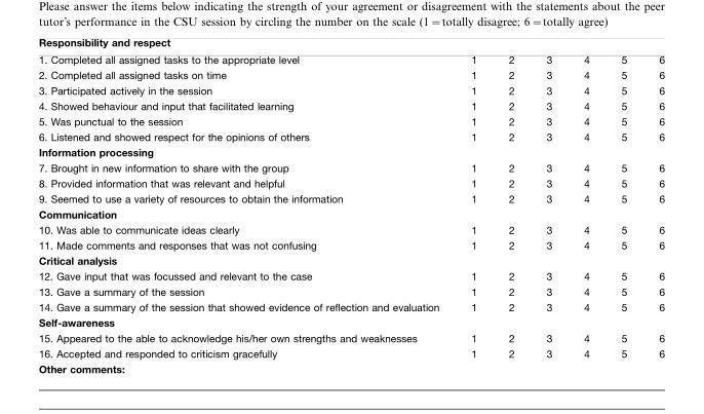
<table><tbody><tr><td colspan="7">Responsibility and respect</td></tr><tr><td>1. Completed all assigned tasks to the appropriate level</td><td>1</td><td>2</td><td>3</td><td>4</td><td>5</td><td>6</td></tr><tr><td>2. Completed all assigned tasks on time</td><td>1</td><td>2</td><td>3</td><td>4</td><td>5</td><td>6</td></tr><tr><td>3. Participated actively in the session</td><td>1</td><td>2</td><td>3</td><td>4</td><td>5</td><td>6</td></tr><tr><td>4. Showed behaviour and input that facilitated learning</td><td>1</td><td>2</td><td>3</td><td>4</td><td>5</td><td>6</td></tr><tr><td>5. Was punctual to the session</td><td>1</td><td>2</td><td>3</td><td>4</td><td>5</td><td>6</td></tr><tr><td>6. Listened and showed respect for the opinions of others</td><td>1</td><td>2</td><td>3</td><td>4</td><td>5</td><td>6</td></tr><tr><td colspan="7">Information processing</td></tr><tr><td>7. Brought in new information to share with the group</td><td>1</td><td>2</td><td>3</td><td>4</td><td>5</td><td>6</td></tr><tr><td>8. Provided information that was relevant and helpful</td><td>1</td><td>2</td><td>3</td><td>4</td><td>5</td><td>6</td></tr><tr><td>9. Seemed to use a variety of resources to obtain the information</td><td>1</td><td>2</td><td>3</td><td>4</td><td>5</td><td>6</td></tr><tr><td colspan="7">Communication</td></tr><tr><td>10. Was able to communicate ideas clearly</td><td>1</td><td>2</td><td>3</td><td>4</td><td>5</td><td>6</td></tr><tr><td>11. Made comments and responses that was not confusing</td><td>1</td><td>2</td><td>3</td><td>4</td><td>5</td><td>6</td></tr><tr><td colspan="7">Critical analysis</td></tr><tr><td>12. Gave input that was focussed and relevant to the case</td><td>1</td><td>2</td><td>3</td><td>4</td><td>5</td><td>6</td></tr><tr><td>13. Gave a summary of the session</td><td>1</td><td>2</td><td>3</td><td>4</td><td>5</td><td>6</td></tr><tr><td>14. Gave a summary of the session that showed evidence of reflection and evaluation</td><td>1</td><td>2</td><td>3</td><td>4</td><td>5</td><td>6</td></tr><tr><td colspan="7">Self-awareness</td></tr><tr><td>15. Appeared to the able to acknowledge his/her own strengths and weaknesses</td><td>1</td><td>2</td><td>3</td><td>4</td><td>5</td><td>6</td></tr><tr><td>16. Accepted and responded to criticism gracefully</td><td>1</td><td>2</td><td>3</td><td>4</td><td>5</td><td>6</td></tr><tr><td>Other comments:</td><td></td><td></td><td></td><td></td><td></td><td></td></tr></tbody></table>